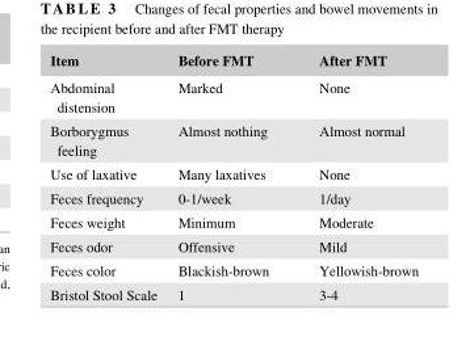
<table><thead><tr><td>Item</td><td>Before FMT</td><td>After FMT</td></tr></thead><tbody><tr><td>Abdominal distension</td><td>Marked</td><td>None</td></tr><tr><td>Borborygmus feeling</td><td>Almost nothing</td><td>Almost normal</td></tr><tr><td>Use of laxative</td><td>Many laxatives</td><td>None</td></tr><tr><td>Feces frequency</td><td>0- 1/week</td><td>1/day</td></tr><tr><td>Feces weight</td><td>Minimum</td><td>Moderate</td></tr><tr><td>Feces odor</td><td>Offensive</td><td>Mild</td></tr><tr><td>Feces color</td><td>Blackish- brown</td><td>Yellowish- brown</td></tr><tr><td>Bristol Stool Scale</td><td>1</td><td>3- 4</td></tr></tbody></table>